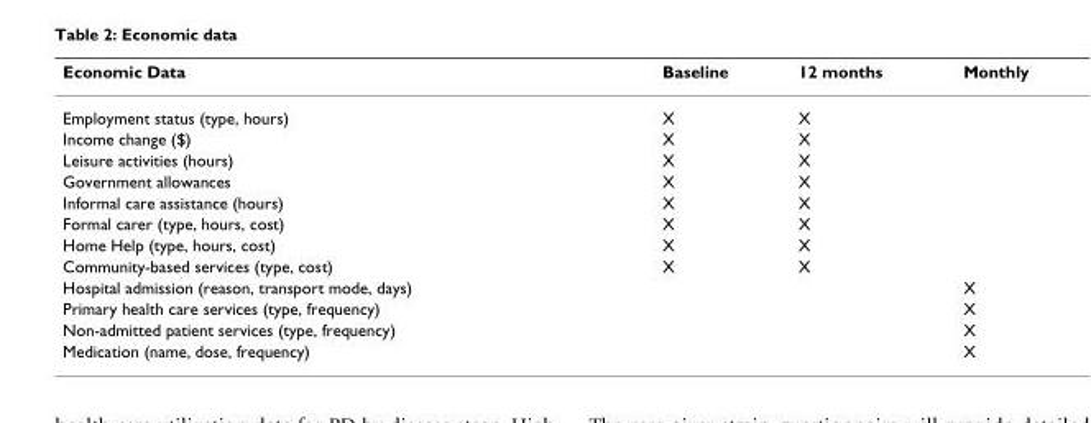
<table><thead><tr><td>Economic Data</td><td>Baseline</td><td>12 months</td><td>Monthly</td></tr></thead><tbody><tr><td>Employment status (type, hours)</td><td>X</td><td>X</td><td></td></tr><tr><td>Income change ($)</td><td>X</td><td>X</td><td></td></tr><tr><td>Leisure activities (hours)</td><td>X</td><td>X</td><td></td></tr><tr><td>Government allowances</td><td>X</td><td>X</td><td></td></tr><tr><td>Informal care assistance (hours)</td><td>X</td><td>X</td><td></td></tr><tr><td>Formal carer (type, hours, cost)</td><td>X</td><td>X</td><td></td></tr><tr><td>Home Help (type, hours, cost)</td><td>X</td><td>X</td><td></td></tr><tr><td>Community-based services (type, cost)</td><td>X</td><td>X</td><td></td></tr><tr><td>Hospital admission (reason, transport mode, days)</td><td></td><td></td><td>X</td></tr><tr><td>Primary health care services (type, frequency)</td><td></td><td></td><td>X</td></tr><tr><td>Non-admitted patient services (type, frequency)</td><td></td><td></td><td>X</td></tr><tr><td>Medication (name, dose, frequency)</td><td></td><td></td><td>X</td></tr></tbody></table>